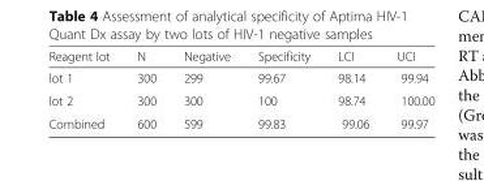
<table><thead><tr><td>Reagent lot</td><td>N</td><td>Negative</td><td>Specificity</td><td>LCI</td><td>UCI</td></tr></thead><tbody><tr><td>lot 1</td><td>300</td><td>299</td><td>99.67</td><td>98.14</td><td>99.94</td></tr><tr><td>lot 2</td><td>300</td><td>300</td><td>100</td><td>98.74</td><td>100.00</td></tr><tr><td>Combined</td><td>600</td><td>599</td><td>99.83</td><td>99.06</td><td>99.97</td></tr></tbody></table>